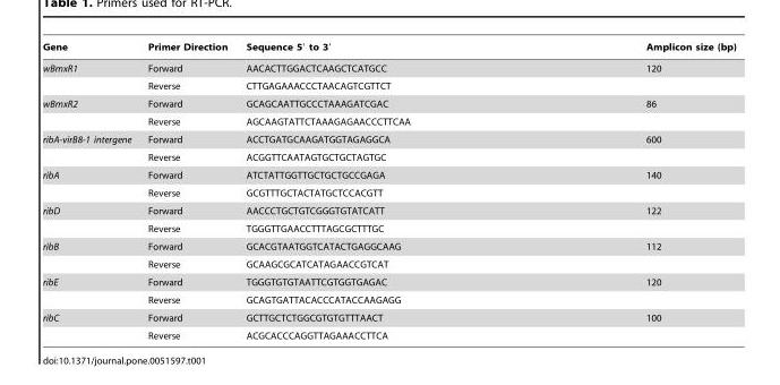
<table><thead><tr><td>Gene</td><td>Primer Direction</td><td>Sequence 5′ to 3′</td><td>Amplicon size (bp)</td></tr></thead><tbody><tr><td rowspan="2">wBmxR1</td><td>Forward</td><td>AACACTTGGACTCAAGCTCATGCC</td><td>120</td></tr><tr><td>Reverse</td><td>CTTGAGAAACCCTAACAGTCGTTCT</td><td></td></tr><tr><td rowspan="2">wBmxR2</td><td>Forward</td><td>GCAGCAATTGCCCTAAAGATCGAC</td><td>86</td></tr><tr><td>Reverse</td><td>AGCAAGTATTCTAAAGAGAACCCTTCAA</td><td></td></tr><tr><td rowspan="2">ribA-virB8-1 intergene</td><td>Forward</td><td>ACCTGATGCAAGATGGTAGAGGCA</td><td>600</td></tr><tr><td>Reverse</td><td>ACGGTTCAATAGTGCTGCTAGTGC</td><td></td></tr><tr><td rowspan="2">ribA</td><td>Forward</td><td>ATCTATTGGTTGCTGCTGCCGAGA</td><td>140</td></tr><tr><td>Reverse</td><td>GCGTTTGCTACTATGCTCCACGTT</td><td></td></tr><tr><td rowspan="2">ribD</td><td>Forward</td><td>AACCCTGCTGTCGGGTGTATCATT</td><td>122</td></tr><tr><td>Reverse</td><td>TGGGTTGAACCTTTAGCGCTTTGC</td><td></td></tr><tr><td rowspan="2">ribB</td><td>Forward</td><td>GCACGTAATGGTCATACTGAGGCAAG</td><td>112</td></tr><tr><td>Reverse</td><td>GCAAGCGCATCATAGAACCGTCAT</td><td></td></tr><tr><td rowspan="2">ribE</td><td>Forward</td><td>TGGGTGTGTAATTCGTGGTGAGAC</td><td>120</td></tr><tr><td>Reverse</td><td>GCAGTGATTACACCCATACCAAGAGG</td><td></td></tr><tr><td rowspan="2">ribC</td><td>Forward</td><td>GCTTGCTCTGGCGTGTGTTTAACT</td><td>100</td></tr><tr><td>Reverse</td><td>ACGCACCCAGGTTAGAAACCTTCA</td><td></td></tr></tbody></table>